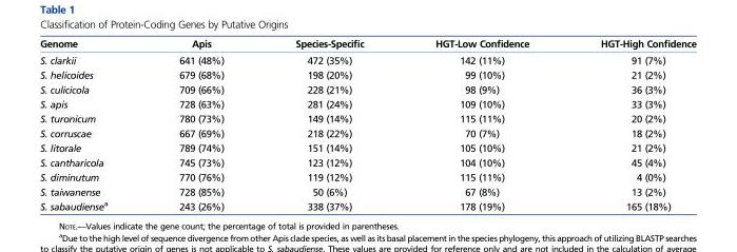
<table><thead><tr><td>Genome</td><td>Apis</td><td>Species-Specific</td><td>HGT-Low Confidence</td><td>HGT-High Confidence</td></tr></thead><tbody><tr><td>S. clarkii</td><td>641 (48%)</td><td>472 (35%)</td><td>142 (11%)</td><td>91 (7%)</td></tr><tr><td>S. helicoides</td><td>679 (68%)</td><td>198 (20%)</td><td>99 (10%)</td><td>21 (2%)</td></tr><tr><td>S. culicicola</td><td>709 (66%)</td><td>228 (21%)</td><td>98 (9%)</td><td>36 (3%)</td></tr><tr><td>S. apis</td><td>728 (63%)</td><td>281 (24%)</td><td>109 (10%)</td><td>33 (3%)</td></tr><tr><td>S. turonicum</td><td>780 (73%)</td><td>149 (14%)</td><td>115 (11%)</td><td>20 (2%)</td></tr><tr><td>S. corruscae</td><td>667 (69%)</td><td>218 (22%)</td><td>70 (7%)</td><td>18 (2%)</td></tr><tr><td>S. litorale</td><td>789 (74%)</td><td>151 (14%)</td><td>105 (10%)</td><td>21 (2%)</td></tr><tr><td>S. cantharicola</td><td>745 (73%)</td><td>123 (12%)</td><td>104 (10%)</td><td>45 (4%)</td></tr><tr><td>S. diminutum</td><td>770 (76%)</td><td>119 (12%)</td><td>115 (11%)</td><td>4 (0%)</td></tr><tr><td>S. taiwanense</td><td>728 (85%)</td><td>50 (6%)</td><td>67 (8%)</td><td>13 (2%)</td></tr><tr><td>S. sabaudiense<sup>a</sup></td><td>243 (26%)</td><td>338 (37%)</td><td>178 (19%)</td><td>165 (18%)</td></tr></tbody></table>